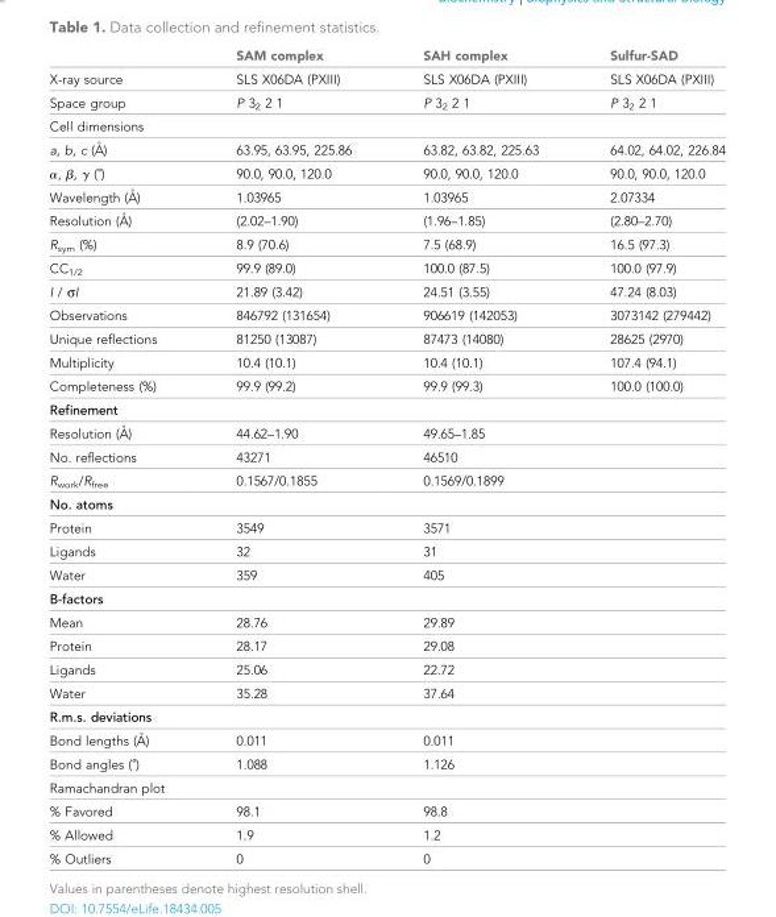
<table><thead><tr><td></td><td>SAM complex</td><td>SAH complex</td><td>Sulfur-SAD</td></tr></thead><tbody><tr><td>X-ray source</td><td>SLS X06DA (PXIII)</td><td>SLS X06DA (PXIII)</td><td>SLS X06DA (PXIII)</td></tr><tr><td>Space group</td><td>P 3<sub>2</sub> 2 1</td><td>P 3<sub>2</sub> 2 1</td><td>P 3<sub>2</sub> 2 1</td></tr><tr><td colspan="4">Cell dimensions</td></tr><tr><td>a, b, c (A˚ )</td><td>63.95, 63.95, 225.86</td><td>63.82, 63.82, 225.63</td><td>64.02, 64.02, 226.84</td></tr><tr><td>α, β, γ (˚)</td><td>90.0, 90.0, 120.0</td><td>90.0, 90.0, 120.0</td><td>90.0, 90.0, 120.0</td></tr><tr><td>Wavelength (A˚ )</td><td>1.03965</td><td>1.03965</td><td>2.07334</td></tr><tr><td>Resolution (A˚ )</td><td>(2.02–1.90)</td><td>(1.96–1.85)</td><td>(2.80–2.70)</td></tr><tr><td>R<sub>sym</sub> (%)</td><td>8.9 (70.6)</td><td>7.5 (68.9)</td><td>16.5 (97.3)</td></tr><tr><td>CC<sub>1/2</sub></td><td>99.9 (89.0)</td><td>100.0 (87.5)</td><td>100.0 (97.9)</td></tr><tr><td>I / σI</td><td>21.89 (3.42)</td><td>24.51 (3.55)</td><td>47.24 (8.03)</td></tr><tr><td>Observations</td><td>846792 (131654)</td><td>906619 (142053)</td><td>3073142 (279442)</td></tr><tr><td>Unique reflections</td><td>81250 (13087)</td><td>87473 (14080)</td><td>28625 (2970)</td></tr><tr><td>Multiplicity</td><td>10.4 (10.1)</td><td>10.4 (10.1)</td><td>107.4 (94.1)</td></tr><tr><td>Completeness (%)</td><td>99.9 (99.2)</td><td>99.9 (99.3)</td><td>100.0 (100.0)</td></tr><tr><td colspan="4">Refinement</td></tr><tr><td>Resolution (A˚ )</td><td>44.62–1.90</td><td>49.65–1.85</td><td></td></tr><tr><td>No. reflections</td><td>43271</td><td>46510</td><td></td></tr><tr><td>R<sub>work</sub>/R<sub>free</sub></td><td>0.1567/0.1855</td><td>0.1569/0.1899</td><td></td></tr><tr><td colspan="4">No. atoms</td></tr><tr><td>Protein</td><td>3549</td><td>3571</td><td></td></tr><tr><td>Ligands</td><td>32</td><td>31</td><td></td></tr><tr><td>Water</td><td>359</td><td>405</td><td></td></tr><tr><td colspan="4">B-factors</td></tr><tr><td>Mean</td><td>28.76</td><td>29.89</td><td></td></tr><tr><td>Protein</td><td>28.17</td><td>29.08</td><td></td></tr><tr><td>Ligands</td><td>25.06</td><td>22.72</td><td></td></tr><tr><td>Water</td><td>35.28</td><td>37.64</td><td></td></tr><tr><td colspan="4">R.m.s. deviations</td></tr><tr><td>Bond lengths (A˚ )</td><td>0.011</td><td>0.011</td><td></td></tr><tr><td>Bond angles (˚)</td><td>1.088</td><td>1.126</td><td></td></tr><tr><td colspan="4">Ramachandran plot</td></tr><tr><td>% Favored</td><td>98.1</td><td>98.8</td><td></td></tr><tr><td>% Allowed</td><td>1.9</td><td>1.2</td><td></td></tr><tr><td>% Outliers</td><td>0</td><td>0</td><td></td></tr></tbody></table>